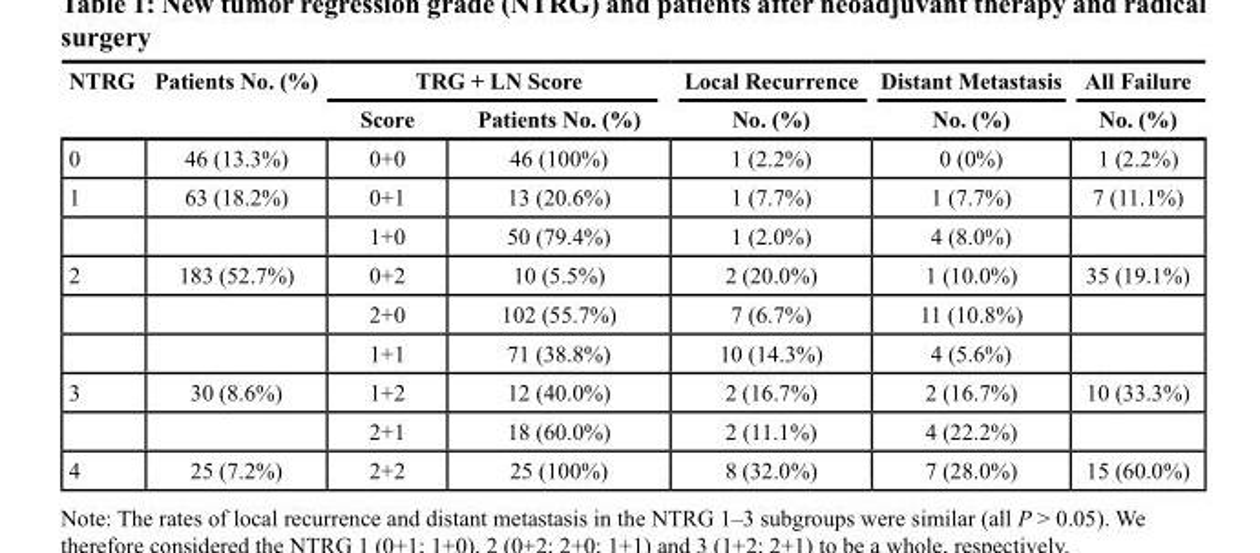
<table><thead><tr><td rowspan="2">NTRG</td><td rowspan="2">Patients No. (%)</td><td colspan="2">TRG + LN Score</td><td rowspan="2">Local Recurrence No. (%)</td><td rowspan="2">Distant Metastasis No. (%)</td><td rowspan="2">All Failure No. (%)</td></tr><tr><td>Score</td><td>Patients No. (%)</td></tr></thead><tbody><tr><td>0</td><td>46 (13.3%)</td><td>0+0</td><td>46 (100%)</td><td>1 (2.2%)</td><td>0 (0%)</td><td>1 (2.2%)</td></tr><tr><td rowspan="2">1</td><td>63 (18.2%)</td><td>0+1</td><td>13 (20.6%)</td><td>1 (7.7%)</td><td>1 (7.7%)</td><td>7 (11.1%)</td></tr><tr><td></td><td>1+0</td><td>50 (79.4%)</td><td>1 (2.0%)</td><td>4 (8.0%)</td><td></td></tr><tr><td rowspan="3">2</td><td>183 (52.7%)</td><td>0+2</td><td>10 (5.5%)</td><td>2 (20.0%)</td><td>1 (10.0%)</td><td>35 (19.1%)</td></tr><tr><td></td><td>2+0</td><td>102 (55.7%)</td><td>7 (6.7%)</td><td>11 (10.8%)</td><td></td></tr><tr><td></td><td>1+1</td><td>71 (38.8%)</td><td>10 (14.3%)</td><td>4 (5.6%)</td><td></td></tr><tr><td rowspan="2">3</td><td>30 (8.6%)</td><td>1+2</td><td>12 (40.0%)</td><td>2 (16.7%)</td><td>2 (16.7%)</td><td>10 (33.3%)</td></tr><tr><td></td><td>2+1</td><td>18 (60.0%)</td><td>2 (11.1%)</td><td>4 (22.2%)</td><td></td></tr><tr><td>4</td><td>25 (7.2%)</td><td>2+2</td><td>25 (100%)</td><td>8 (32.0%)</td><td>7 (28.0%)</td><td>15 (60.0%)</td></tr></tbody></table>